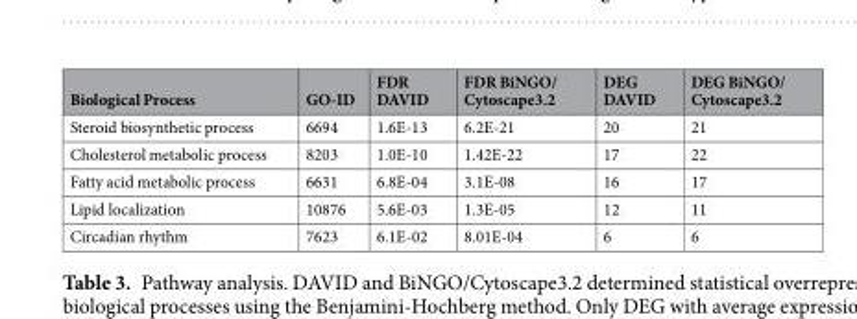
<table><thead><tr><td>Biological Process</td><td>GO-ID</td><td>FDR DAVID</td><td>FDR BiNGO/ Cytoscape3.2</td><td>DEG DAVID</td><td>DEG BiNGO/ Cytoscape3.2</td></tr></thead><tbody><tr><td>Steroid biosynthetic process</td><td>6694</td><td>1.6E-13</td><td>6.2E-21</td><td>20</td><td>21</td></tr><tr><td>Cholesterol metabolic process</td><td>8203</td><td>1.0E-10</td><td>1.42E-22</td><td>17</td><td>22</td></tr><tr><td>Fatty acid metabolic process</td><td>6631</td><td>6.8E-04</td><td>3.1E-08</td><td>16</td><td>17</td></tr><tr><td>Lipid localization</td><td>10876</td><td>5.6E-03</td><td>1.3E-05</td><td>12</td><td>11</td></tr><tr><td>Circadian rhythm</td><td>7623</td><td>6.1E-02</td><td>8.01E-04</td><td>6</td><td>6</td></tr></tbody></table>